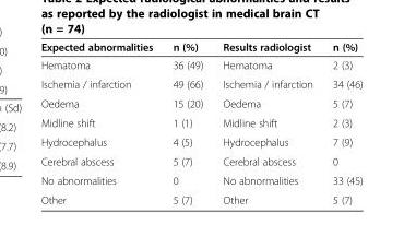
<table><thead><tr><td>Expected abnormalities</td><td>n (%)</td><td>Results radiologist</td><td>n (%)</td></tr></thead><tbody><tr><td>Hematoma</td><td>36 (49)</td><td>Hematoma</td><td>2 (3)</td></tr><tr><td>Ischemia / infarction</td><td>49 (66)</td><td>Ischemia / infarction</td><td>34 (46)</td></tr><tr><td>Oedema</td><td>15 (20)</td><td>Oedema</td><td>5 (7)</td></tr><tr><td>Midline shift</td><td>1 (1)</td><td>Midline shift</td><td>2 (3)</td></tr><tr><td>Hydrocephalus</td><td>4 (5)</td><td>Hydrocephalus</td><td>7 (9)</td></tr><tr><td>Cerebral abscess</td><td>5 (7)</td><td>Cerebral abscess</td><td>0</td></tr><tr><td>No abnormalities</td><td>0</td><td>No abnormalities</td><td>33 (45)</td></tr><tr><td>Other</td><td>5 (7)</td><td>Other</td><td>5 (7)</td></tr></tbody></table>